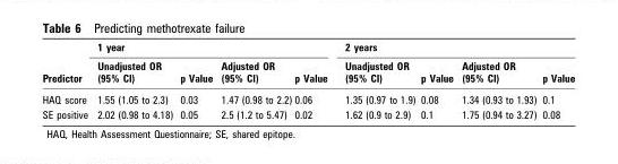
<table><thead><tr><td rowspan="2">Predictor</td><td colspan="4">1 year</td><td colspan="4">2 years</td></tr><tr><td>Unadjusted OR (95% CI)</td><td>p Value</td><td>Adjusted OR (95% CI)</td><td>p Value</td><td>Unadjusted OR (95% CI)</td><td>p Value</td><td>Adjusted OR (95% CI)</td><td>p Value</td></tr></thead><tbody><tr><td>HAQ score</td><td>1.55 (1.05 to 2.3)</td><td>0.03</td><td>1.47 (0.98 to 2.2)</td><td>0.06</td><td>1.35 (0.97 to 1.9)</td><td>0.08</td><td>1.34 (0.93 to 1.93)</td><td>0.1</td></tr><tr><td>SE positive</td><td>2.02 (0.98 to 4.18)</td><td>0.05</td><td>2.5 (1.2 to 5.47)</td><td>0.02</td><td>1.62 (0.9 to 2.9)</td><td>0.1</td><td>1.75 (0.94 to 3.27)</td><td>0.08</td></tr></tbody></table>